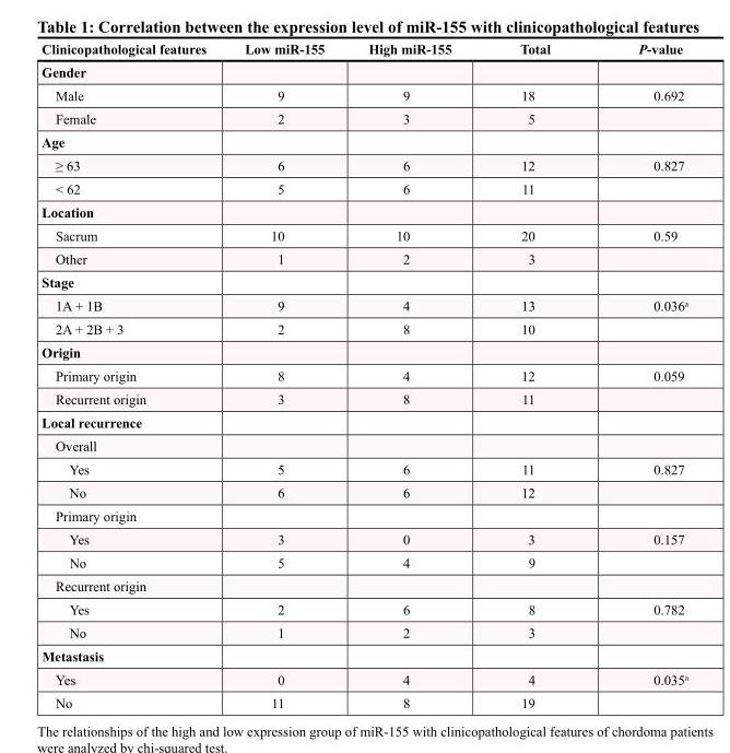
<table><thead><tr><td>Clinicopathological features</td><td>Low miR-155</td><td>High miR-155</td><td>Total</td><td>P-value</td></tr></thead><tbody><tr><td colspan="5">Gender</td></tr><tr><td>Male</td><td>9</td><td>9</td><td>18</td><td>0.692</td></tr><tr><td>Female</td><td>2</td><td>3</td><td>5</td><td></td></tr><tr><td colspan="5">Age</td></tr><tr><td>≥ 63</td><td>6</td><td>6</td><td>12</td><td>0.827</td></tr><tr><td>&lt; 62</td><td>5</td><td>6</td><td>11</td><td></td></tr><tr><td colspan="5">Location</td></tr><tr><td>Sacrum</td><td>10</td><td>10</td><td>20</td><td>0.59</td></tr><tr><td>Other</td><td>1</td><td>2</td><td>3</td><td></td></tr><tr><td colspan="5">Stage</td></tr><tr><td>1A + 1B</td><td>9</td><td>4</td><td>13</td><td>0.036<sup>a</sup></td></tr><tr><td>2A + 2B + 3</td><td>2</td><td>8</td><td>10</td><td></td></tr><tr><td colspan="5">Origin</td></tr><tr><td>Primary origin</td><td>8</td><td>4</td><td>12</td><td>0.059</td></tr><tr><td>Recurrent origin</td><td>3</td><td>8</td><td>11</td><td></td></tr><tr><td colspan="5">Local recurrence</td></tr><tr><td colspan="5">Overall</td></tr><tr><td>Yes</td><td>5</td><td>6</td><td>11</td><td>0.827</td></tr><tr><td>No</td><td>6</td><td>6</td><td>12</td><td></td></tr><tr><td colspan="5">Primary origin</td></tr><tr><td>Yes</td><td>3</td><td>0</td><td>3</td><td>0.157</td></tr><tr><td>No</td><td>5</td><td>4</td><td>9</td><td></td></tr><tr><td colspan="5">Recurrent origin</td></tr><tr><td>Yes</td><td>2</td><td>6</td><td>8</td><td>0.782</td></tr><tr><td>No</td><td>1</td><td>2</td><td>3</td><td></td></tr><tr><td colspan="5">Metastasis</td></tr><tr><td>Yes</td><td>0</td><td>4</td><td>4</td><td>0.035<sup>a</sup></td></tr><tr><td>No</td><td>11</td><td>8</td><td>19</td><td></td></tr></tbody></table>